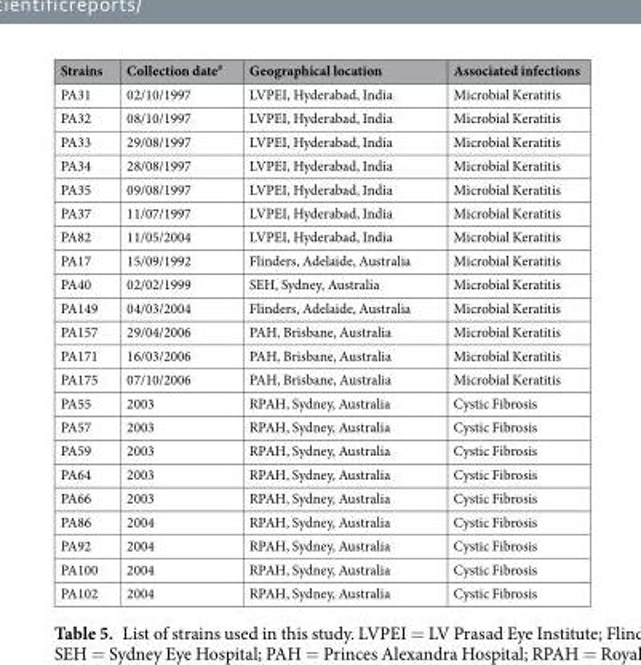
<table><thead><tr><td>Strains</td><td>Collection date<sup>#</sup></td><td>Geographical location</td><td>Associated infections</td></tr></thead><tbody><tr><td>PA31</td><td>02/10/1997</td><td>LVPEI, Hyderabad, India</td><td>Microbial Keratitis</td></tr><tr><td>PA32</td><td>08/10/1997</td><td>LVPEI, Hyderabad, India</td><td>Microbial Keratitis</td></tr><tr><td>PA33</td><td>29/08/1997</td><td>LVPEI, Hyderabad, India</td><td>Microbial Keratitis</td></tr><tr><td>PA34</td><td>28/08/1997</td><td>LVPEI, Hyderabad, India</td><td>Microbial Keratitis</td></tr><tr><td>PA35</td><td>09/08/1997</td><td>LVPEI, Hyderabad, India</td><td>Microbial Keratitis</td></tr><tr><td>PA37</td><td>11/07/1997</td><td>LVPEI, Hyderabad, India</td><td>Microbial Keratitis</td></tr><tr><td>PA82</td><td>11/05/2004</td><td>LVPEI, Hyderabad, India</td><td>Microbial Keratitis</td></tr><tr><td>PA17</td><td>15/09/1992</td><td>Flinders, Adelaide, Australia</td><td>Microbial Keratitis</td></tr><tr><td>PA40</td><td>02/02/1999</td><td>SEH, Sydney, Australia</td><td>Microbial Keratitis</td></tr><tr><td>PA149</td><td>04/03/2004</td><td>Flinders, Adelaide, Australia</td><td>Microbial Keratitis</td></tr><tr><td>PA157</td><td>29/04/2006</td><td>PAH, Brisbane, Australia</td><td>Microbial Keratitis</td></tr><tr><td>PA171</td><td>16/03/2006</td><td>PAH, Brisbane, Australia</td><td>Microbial Keratitis</td></tr><tr><td>PA175</td><td>07/10/2006</td><td>PAH, Brisbane, Australia</td><td>Microbial Keratitis</td></tr><tr><td>PA55</td><td>2003</td><td>RPAH, Sydney, Australia</td><td>Cystic Fibrosis</td></tr><tr><td>PA57</td><td>2003</td><td>RPAH, Sydney, Australia</td><td>Cystic Fibrosis</td></tr><tr><td>PA59</td><td>2003</td><td>RPAH, Sydney, Australia</td><td>Cystic Fibrosis</td></tr><tr><td>PA64</td><td>2003</td><td>RPAH, Sydney, Australia</td><td>Cystic Fibrosis</td></tr><tr><td>PA66</td><td>2003</td><td>RPAH, Sydney, Australia</td><td>Cystic Fibrosis</td></tr><tr><td>PA86</td><td>2004</td><td>RPAH, Sydney, Australia</td><td>Cystic Fibrosis</td></tr><tr><td>PA92</td><td>2004</td><td>RPAH, Sydney, Australia</td><td>Cystic Fibrosis</td></tr><tr><td>PA100</td><td>2004</td><td>RPAH, Sydney, Australia</td><td>Cystic Fibrosis</td></tr><tr><td>PA102</td><td>2004</td><td>RPAH, Sydney, Australia</td><td>Cystic Fibrosis</td></tr></tbody></table>